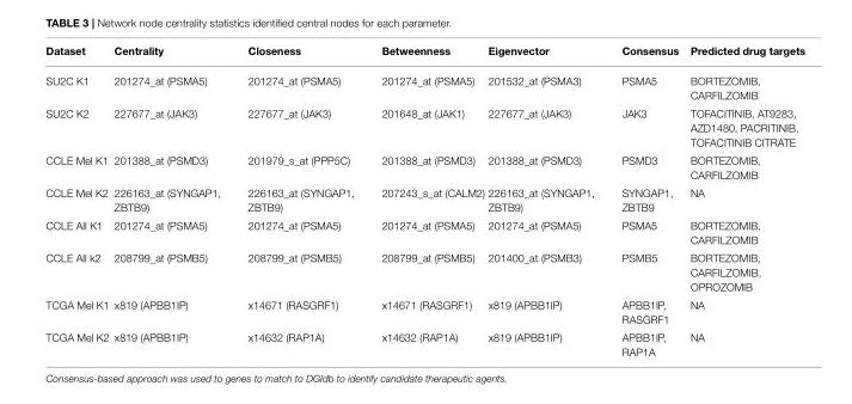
<table><thead><tr><td>Dataset</td><td>Centrality</td><td>Closeness</td><td>Betweenness</td><td>Eigenvector</td><td>Consensus</td><td>Predicted drug targets</td></tr></thead><tbody><tr><td>SU2C K1</td><td>201274_at (PSMA5)</td><td>201274_at (PSMA5)</td><td>201274_at (PSMA5)</td><td>201532_at (PSMA3)</td><td>PSMA5</td><td>BORTEZOMIB, CARFILZOMIB</td></tr><tr><td>SU2C K2</td><td>227677_at (JAK3)</td><td>227677_at (JAK3)</td><td>201648_at (JAK1)</td><td>227677_at (JAK3)</td><td>JAK3</td><td>TOFACITINIB, AT9283, AZD1480, PACRITINIB, TOFACITINIB CITRATE</td></tr><tr><td>CCLE Mel K1</td><td>201388_at (PSMD3)</td><td>201979_s_at (PPP5C)</td><td>201388_at (PSMD3)</td><td>201388_at (PSMD3)</td><td>PSMD3</td><td>BORTEZOMIB, CARFILZOMIB</td></tr><tr><td>CCLE Mel K2</td><td>226163_at (SYNGAP1, ZBTB9)</td><td>226163_at (SYNGAP1, ZBTB9)</td><td>207243_s_at (CALM2)</td><td>226163_at (SYNGAP1, ZBTB9)</td><td>SYNGAP1, ZBTB9</td><td>NA</td></tr><tr><td>CCLE All K1</td><td>201274_at (PSMA5)</td><td>201274_at (PSMA5)</td><td>201274_at (PSMA5)</td><td>201274_at (PSMA5)</td><td>PSMA5</td><td>BORTEZOMIB, CARFILZOMIB</td></tr><tr><td>CCLE All k2</td><td>208799_at (PSMB5)</td><td>208799_at (PSMB5)</td><td>208799_at (PSMB5)</td><td>201400_at (PSMB3)</td><td>PSMB5</td><td>BORTEZOMIB, CARFILZOMIB, OPROZOMIB</td></tr><tr><td>TCGA Mel K1</td><td>x819 (APBB1IP)</td><td>x14671 (RASGRF1)</td><td>x14671 (RASGRF1)</td><td>x819 (APBB1IP)</td><td>APBB1IP, RASGRF1</td><td>NA</td></tr><tr><td>TCGA Mel K2</td><td>x819 (APBB1IP)</td><td>x14632 (RAP1A)</td><td>x14632 (RAP1A)</td><td>x819 (APBB1IP)</td><td>APBB1IP, RAP1A</td><td>NA</td></tr></tbody></table>